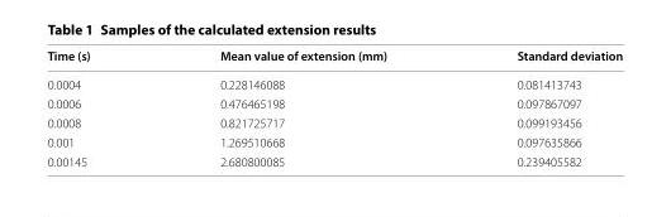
<table><thead><tr><td>Time (s)</td><td>Mean value of extension (mm)</td><td>Standard deviation</td></tr></thead><tbody><tr><td>0.0004</td><td>0.228146088</td><td>0.081413743</td></tr><tr><td>0.0006</td><td>0.476465198</td><td>0.097867097</td></tr><tr><td>0.0008</td><td>0.821725717</td><td>0.099193456</td></tr><tr><td>0.001</td><td>1.269510668</td><td>0.097635866</td></tr><tr><td>0.00145</td><td>2.680800085</td><td>0.239405582</td></tr></tbody></table>